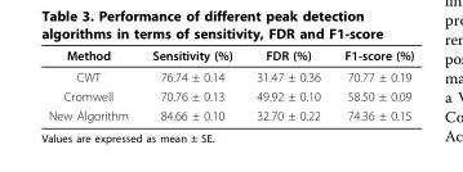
<table><thead><tr><td>Method</td><td>Sensitivity (%)</td><td>FDR (%)</td><td>F1-score (%)</td></tr></thead><tbody><tr><td>CWT</td><td>76.74 ± 0.14</td><td>31.47 ± 0.36</td><td>70.77 ± 0.19</td></tr><tr><td>Cromwell</td><td>70.76 ± 0.13</td><td>49.92 ± 0.10</td><td>58.50 ± 0.09</td></tr><tr><td>New Algorithm</td><td>84.66 ± 0.10</td><td>32.70 ± 0.22</td><td>74.36 ± 0.15</td></tr></tbody></table>